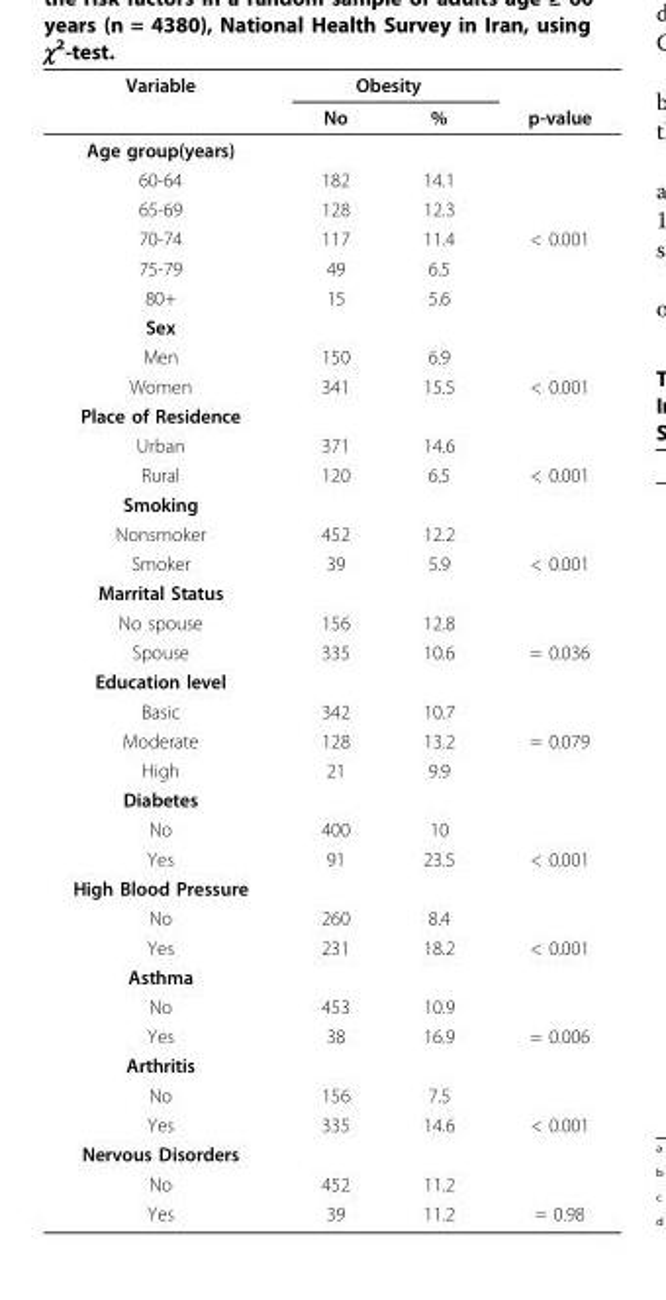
<table><thead><tr><td rowspan="2">Variable</td><td colspan="2">Obesity</td><td rowspan="2">p-value</td></tr><tr><td>No</td><td>%</td></tr></thead><tbody><tr><td colspan="4">Age group(years)</td></tr><tr><td>60-64</td><td>182</td><td>14.1</td><td></td></tr><tr><td>65-69</td><td>128</td><td>12.3</td><td></td></tr><tr><td>70-74</td><td>117</td><td>11.4</td><td>&lt; 0.001</td></tr><tr><td>75-79</td><td>49</td><td>6.5</td><td></td></tr><tr><td>80+</td><td>15</td><td>5.6</td><td></td></tr><tr><td colspan="4">Sex</td></tr><tr><td>Men</td><td>150</td><td>6.9</td><td></td></tr><tr><td>Women</td><td>341</td><td>15.5</td><td>&lt; 0.001</td></tr><tr><td colspan="4">Place of Residence</td></tr><tr><td>Urban</td><td>371</td><td>14.6</td><td></td></tr><tr><td>Rural</td><td>120</td><td>6.5</td><td>&lt; 0.001</td></tr><tr><td colspan="4">Smoking</td></tr><tr><td>Nonsmoker</td><td>452</td><td>12.2</td><td></td></tr><tr><td>Smoker</td><td>39</td><td>5.9</td><td>&lt; 0.001</td></tr><tr><td colspan="4">Marrital Status</td></tr><tr><td>No spouse</td><td>156</td><td>12.8</td><td></td></tr><tr><td>Spouse</td><td>335</td><td>10.6</td><td>= 0.036</td></tr><tr><td colspan="4">Education level</td></tr><tr><td>Basic</td><td>342</td><td>10.7</td><td></td></tr><tr><td>Moderate</td><td>128</td><td>13.2</td><td>= 0.079</td></tr><tr><td>High</td><td>21</td><td>9.9</td><td></td></tr><tr><td colspan="4">Diabetes</td></tr><tr><td>No</td><td>400</td><td>10</td><td></td></tr><tr><td>Yes</td><td>91</td><td>23.5</td><td>&lt; 0.001</td></tr><tr><td colspan="4">High Blood Pressure</td></tr><tr><td>No</td><td>260</td><td>8.4</td><td></td></tr><tr><td>Yes</td><td>231</td><td>18.2</td><td>&lt; 0.001</td></tr><tr><td colspan="4">Asthma</td></tr><tr><td>No</td><td>453</td><td>10.9</td><td></td></tr><tr><td>Yes</td><td>38</td><td>16.9</td><td>= 0.006</td></tr><tr><td colspan="4">Arthritis</td></tr><tr><td>No</td><td>156</td><td>7.5</td><td></td></tr><tr><td>Yes</td><td>335</td><td>14.6</td><td>&lt; 0.001</td></tr><tr><td colspan="4">Nervous Disorders</td></tr><tr><td>No</td><td>452</td><td>11.2</td><td></td></tr><tr><td>Yes</td><td>39</td><td>11.2</td><td>= 0.98</td></tr></tbody></table>